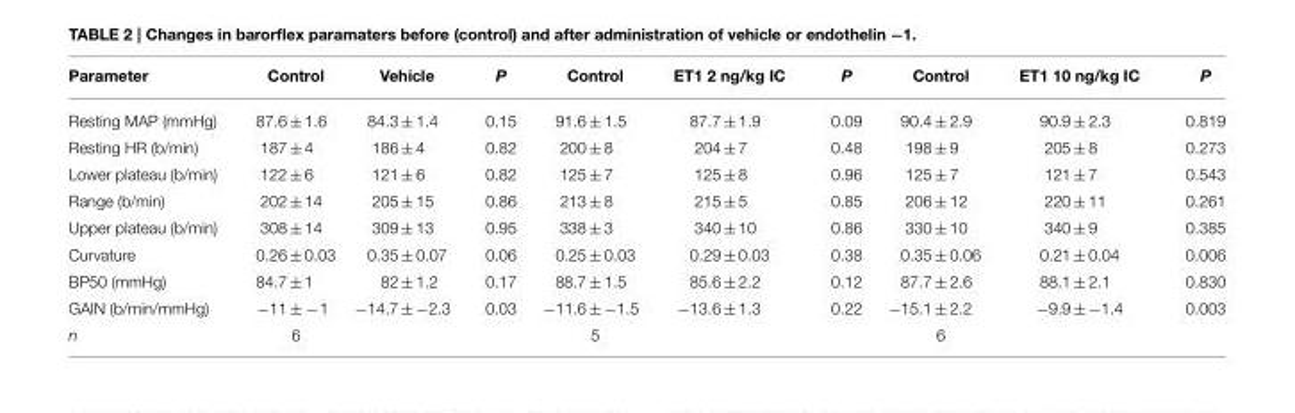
<table><thead><tr><td>Parameter</td><td>Control</td><td>Vehicle</td><td>P</td><td>Control</td><td>ET1 2 ng/kg IC</td><td>P</td><td>Control</td><td>ET1 10 ng/kg IC</td><td>P</td></tr></thead><tbody><tr><td>Resting MAP (mmHg)</td><td>87.6 ± 1.6</td><td>84.3 ± 1.4</td><td>0.15</td><td>91.6 ± 1.5</td><td>87.7 ± 1.9</td><td>0.09</td><td>90.4 ± 2.9</td><td>90.9 ± 2.3</td><td>0.819</td></tr><tr><td>Resting HR (b/min)</td><td>187 ± 4</td><td>186 ± 4</td><td>0.82</td><td>200 ± 8</td><td>204 ± 7</td><td>0.48</td><td>198 ± 9</td><td>205 ± 8</td><td>0.273</td></tr><tr><td>Lower plateau (b/min)</td><td>122 ± 6</td><td>121 ± 6</td><td>0.82</td><td>125 ± 7</td><td>125 ± 8</td><td>0.96</td><td>125 ± 7</td><td>121 ± 7</td><td>0.543</td></tr><tr><td>Range (b/min)</td><td>202 ± 14</td><td>205 ± 15</td><td>0.86</td><td>213 ± 8</td><td>215 ± 5</td><td>0.85</td><td>206 ± 12</td><td>220 ± 11</td><td>0.261</td></tr><tr><td>Upper plateau (b/min)</td><td>308 ± 14</td><td>309 ± 13</td><td>0.95</td><td>338 ± 3</td><td>340 ± 10</td><td>0.86</td><td>330 ± 10</td><td>340 ± 9</td><td>0.385</td></tr><tr><td>Curvature</td><td>0.26 ± 0.03</td><td>0.35 ± 0.07</td><td>0.06</td><td>0.25 ± 0.03</td><td>0.29 ± 0.03</td><td>0.38</td><td>0.35 ± 0.06</td><td>0.21 ± 0.04</td><td>0.006</td></tr><tr><td>BP50 (mmHg)</td><td>84.7 ± 1</td><td>82 ± 1.2</td><td>0.17</td><td>88.7 ± 1.5</td><td>85.6 ± 2.2</td><td>0.12</td><td>87.7 ± 2.6</td><td>88.1 ± 2.1</td><td>0.830</td></tr><tr><td>GAIN (b/min/mmHg)</td><td>−11 ± −1</td><td>−14.7 ± −2.3</td><td>0.03</td><td>−11.6 ± −1.5</td><td>−13.6 ± 1.3</td><td>0.22</td><td>−15.1 ± 2.2</td><td>−9.9 ± −1.4</td><td>0.003</td></tr><tr><td>n</td><td>6</td><td></td><td></td><td>5</td><td></td><td></td><td>6</td><td></td><td></td></tr></tbody></table>